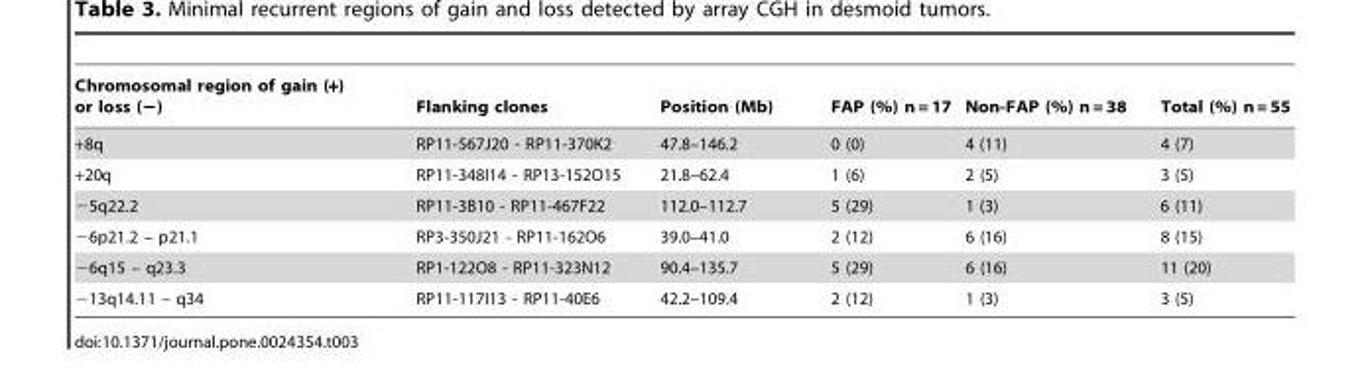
<table><thead><tr><td>Chromosomal region of gain (+) or loss (−)</td><td>Flanking clones</td><td>Position (Mb)</td><td>FAP (%) n = 17</td><td>Non-FAP (%) n = 38</td><td>Total (%) n = 55</td></tr></thead><tbody><tr><td>+8q</td><td>RP11-567J20 - RP11-370K2</td><td>47.8–146.2</td><td>0 (0)</td><td>4 (11)</td><td>4 (7)</td></tr><tr><td>+20q</td><td>RP11-348I14 - RP13-152O15</td><td>21.8–62.4</td><td>1 (6)</td><td>2 (5)</td><td>3 (5)</td></tr><tr><td>−5q22.2</td><td>RP11-3B10 - RP11-467F22</td><td>112.0–112.7</td><td>5 (29)</td><td>1 (3)</td><td>6 (11)</td></tr><tr><td>−6p21.2 – p21.1</td><td>RP3-350J21 - RP11-162O6</td><td>39.0–41.0</td><td>2 (12)</td><td>6 (16)</td><td>8 (15)</td></tr><tr><td>−6q15 – q23.3</td><td>RP1-122O8 - RP11-323N12</td><td>90.4–135.7</td><td>5 (29)</td><td>6 (16)</td><td>11 (20)</td></tr><tr><td>−13q14.11 – q34</td><td>RP11-117I13 - RP11-40E6</td><td>42.2–109.4</td><td>2 (12)</td><td>1 (3)</td><td>3 (5)</td></tr></tbody></table>